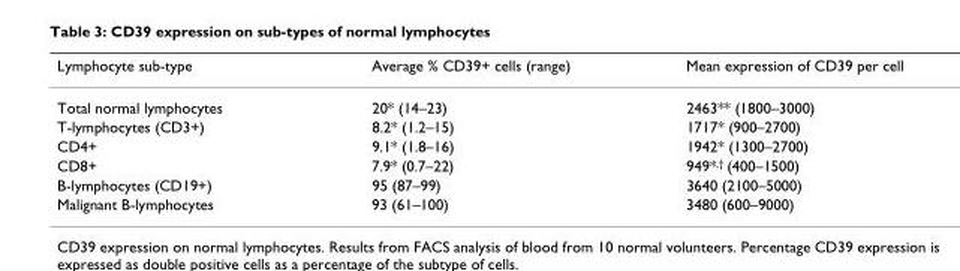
<table><thead><tr><td>Lymphocyte sub-type</td><td>Average % CD39+ cells (range)</td><td>Mean expression of CD39 per cell</td></tr></thead><tbody><tr><td>Total normal lymphocytes</td><td>20* (14–23)</td><td>2463** (1800–3000)</td></tr><tr><td>T-lymphocytes (CD3+)</td><td>8.2* (1.2–15)</td><td>1717* (900–2700)</td></tr><tr><td>CD4+</td><td>9.1* (1.8–16)</td><td>1942* (1300–2700)</td></tr><tr><td>CD8+</td><td>7.9* (0.7–22)</td><td>949*<sup>,†</sup> (400–1500)</td></tr><tr><td>B-lymphocytes (CD19+)</td><td>95 (87–99)</td><td>3640 (2100–5000)</td></tr><tr><td>Malignant B-lymphocytes</td><td>93 (61–100)</td><td>3480 (600–9000)</td></tr></tbody></table>